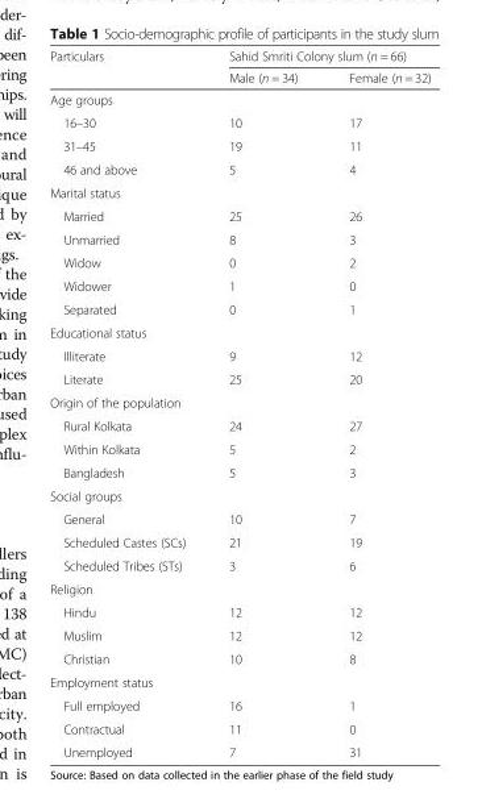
<table><thead><tr><td rowspan="2">Particulars</td><td colspan="2">Sahid Smriti Colony slum (n = 66)</td></tr><tr><td>Male (n = 34)</td><td>Female (n = 32)</td></tr></thead><tbody><tr><td colspan="3">Age groups</td></tr><tr><td>16–30</td><td>10</td><td>17</td></tr><tr><td>31–45</td><td>19</td><td>11</td></tr><tr><td>46 and above</td><td>5</td><td>4</td></tr><tr><td colspan="3">Marital status</td></tr><tr><td>Married</td><td>25</td><td>26</td></tr><tr><td>Unmarried</td><td>8</td><td>3</td></tr><tr><td>Widow</td><td>0</td><td>2</td></tr><tr><td>Widower</td><td>1</td><td>0</td></tr><tr><td>Separated</td><td>0</td><td>1</td></tr><tr><td colspan="3">Educational status</td></tr><tr><td>Illiterate</td><td>9</td><td>12</td></tr><tr><td>Literate</td><td>25</td><td>20</td></tr><tr><td colspan="3">Origin of the population</td></tr><tr><td>Rural Kolkata</td><td>24</td><td>27</td></tr><tr><td>Within Kolkata</td><td>5</td><td>2</td></tr><tr><td>Bangladesh</td><td>5</td><td>3</td></tr><tr><td colspan="3">Social groups</td></tr><tr><td>General</td><td>10</td><td>7</td></tr><tr><td>Scheduled Castes (SCs)</td><td>21</td><td>19</td></tr><tr><td>Scheduled Tribes (STs)</td><td>3</td><td>6</td></tr><tr><td colspan="3">Religion</td></tr><tr><td>Hindu</td><td>12</td><td>12</td></tr><tr><td>Muslim</td><td>12</td><td>12</td></tr><tr><td>Christian</td><td>10</td><td>8</td></tr><tr><td colspan="3">Employment status</td></tr><tr><td>Full employed</td><td>16</td><td>1</td></tr><tr><td>Contractual</td><td>11</td><td>0</td></tr><tr><td>Unemployed</td><td>7</td><td>31</td></tr></tbody></table>